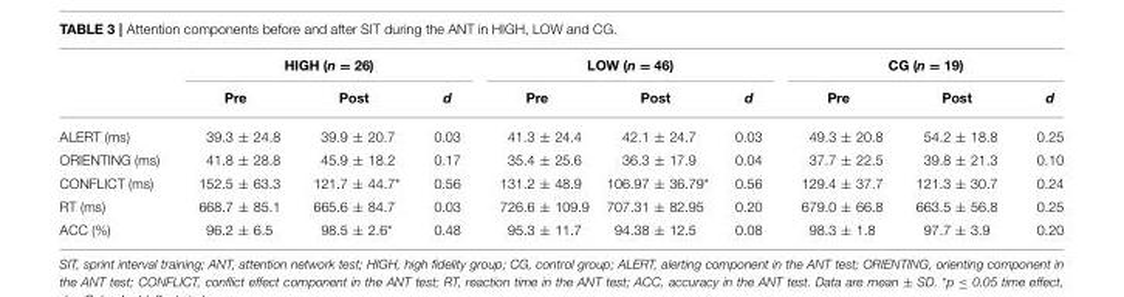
<table><thead><tr><td rowspan="2"></td><td colspan="3">HIGH (n = 26)</td><td colspan="3">LOW (n = 46)</td><td colspan="3">CG (n = 19)</td></tr><tr><td>Pre</td><td>Post</td><td>d</td><td>Pre</td><td>Post</td><td>d</td><td>Pre</td><td>Post</td><td>d</td></tr></thead><tbody><tr><td>ALERT (ms)</td><td>39.3 ± 24.8</td><td>39.9 ± 20.7</td><td>0.03</td><td>41.3 ± 24.4</td><td>42.1 ± 24.7</td><td>0.03</td><td>49.3 ± 20.8</td><td>54.2 ± 18.8</td><td>0.25</td></tr><tr><td>ORIENTING (ms)</td><td>41.8 ± 28.8</td><td>45.9 ± 18.2</td><td>0.17</td><td>35.4 ± 25.6</td><td>36.3 ± 17.9</td><td>0.04</td><td>37.7 ± 22.5</td><td>39.8 ± 21.3</td><td>0.10</td></tr><tr><td>CONFLICT (ms)</td><td>152.5 ± 63.3</td><td>121.7 ± 44.7*</td><td>0.56</td><td>131.2 ± 48.9</td><td>106.97 ± 36.79*</td><td>0.56</td><td>129.4 ± 37.7</td><td>121.3 ± 30.7</td><td>0.24</td></tr><tr><td>RT (ms)</td><td>668.7 ± 85.1</td><td>665.6 ± 84.7</td><td>0.03</td><td>726.6 ± 109.9</td><td>707.31 ± 82.95</td><td>0.20</td><td>679.0 ± 66.8</td><td>663.5 ± 56.8</td><td>0.25</td></tr><tr><td>ACC (%)</td><td>96.2 ± 6.5</td><td>98.5 ± 2.6*</td><td>0.48</td><td>95.3 ± 11.7</td><td>94.38 ± 12.5</td><td>0.08</td><td>98.3 ± 1.8</td><td>97.7 ± 3.9</td><td>0.20</td></tr></tbody></table>